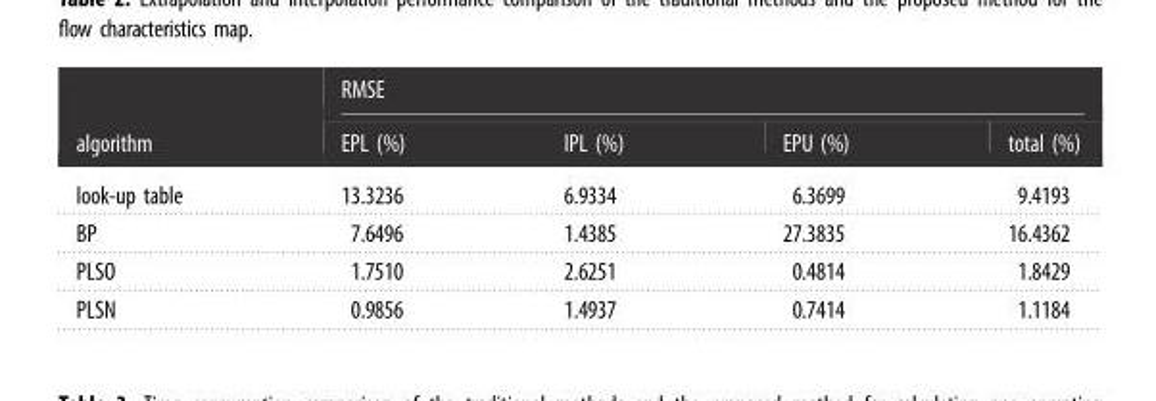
<table><thead><tr><td rowspan="2">algorithm</td><td colspan="4">RMSE</td></tr><tr><td>EPL (%)</td><td>IPL (%)</td><td>EPU (%)</td><td>total (%)</td></tr></thead><tbody><tr><td>look-up table</td><td>13.3236</td><td>6.9334</td><td>6.3699</td><td>9.4193</td></tr><tr><td>BP</td><td>7.6496</td><td>1.4385</td><td>27.3835</td><td>16.4362</td></tr><tr><td>PLSO</td><td>1.7510</td><td>2.6251</td><td>0.4814</td><td>1.8429</td></tr><tr><td>PLSN</td><td>0.9856</td><td>1.4937</td><td>0.7414</td><td>1.1184</td></tr></tbody></table>